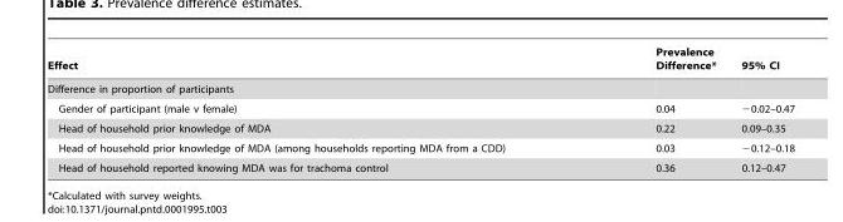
<table><thead><tr><td>Effect</td><td>Prevalence Difference*</td><td>95% CI</td></tr></thead><tbody><tr><td colspan="3">Difference in proportion of participants</td></tr><tr><td>Gender of participant (male v female)</td><td>0.04</td><td>−0.02–0.47</td></tr><tr><td>Head of household prior knowledge of MDA</td><td>0.22</td><td>0.09–0.35</td></tr><tr><td>Head of household prior knowledge of MDA (among households reporting MDA from a CDD)</td><td>0.03</td><td>−0.12–0.18</td></tr><tr><td>Head of household reported knowing MDA was for trachoma control</td><td>0.36</td><td>0.12–0.47</td></tr></tbody></table>